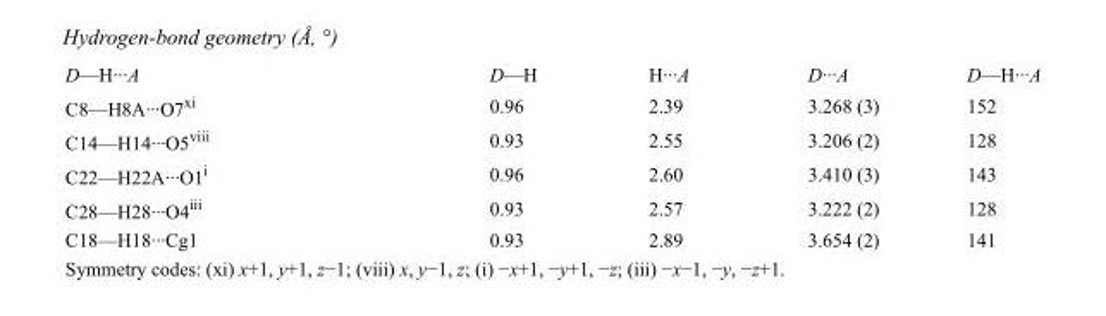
<table><tbody><tr><td>D—H···A</td><td>D—H</td><td>H···A</td><td>D···A</td><td>D—H···A</td></tr><tr><td>C8—H8A···O7<sup>xi</sup></td><td>0.96</td><td>2.39</td><td>3.268 (3)</td><td>152</td></tr><tr><td>C14—H14···O5<sup>viii</sup></td><td>0.93</td><td>2.55</td><td>3.206 (2)</td><td>128</td></tr><tr><td>C22—H22A···O1<sup>i</sup></td><td>0.96</td><td>2.60</td><td>3.410 (3)</td><td>143</td></tr><tr><td>C28—H28···O4<sup>iii</sup></td><td>0.93</td><td>2.57</td><td>3.222 (2)</td><td>128</td></tr><tr><td>C18—H18···Cg1</td><td>0.93</td><td>2.89</td><td>3.654 (2)</td><td>141</td></tr></tbody></table>